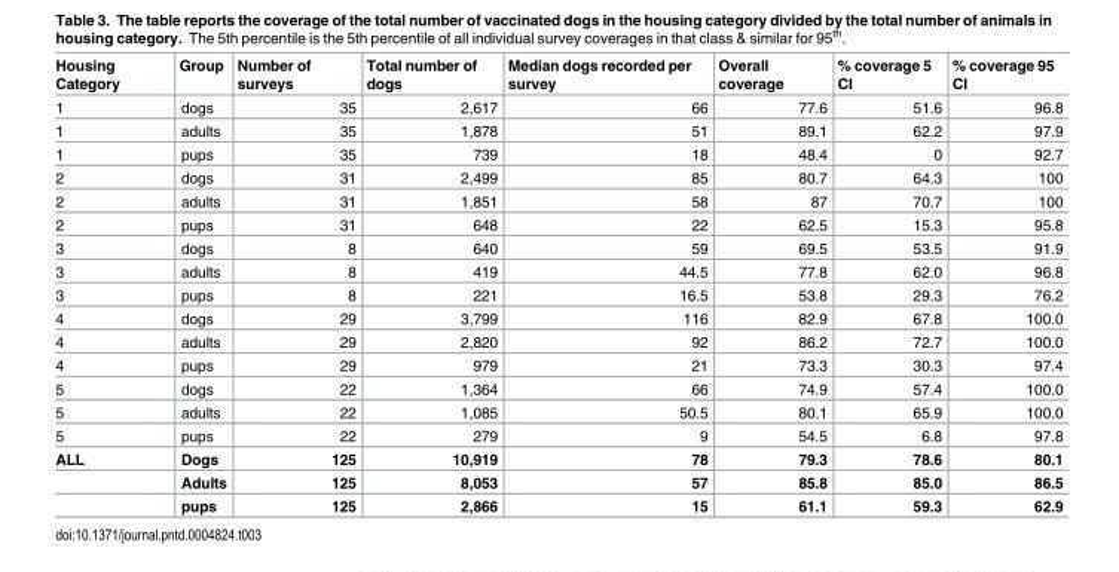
<table><thead><tr><td>Housing Category</td><td>Group</td><td>Number of surveys</td><td>Total number of dogs</td><td>Median dogs recorded per survey</td><td>Overall coverage</td><td>% coverage 5 CI</td><td>% coverage 95 CI</td></tr></thead><tbody><tr><td>1</td><td>dogs</td><td>35</td><td>2,617</td><td>66</td><td>77.6</td><td>51.6</td><td>96.8</td></tr><tr><td>1</td><td>adults</td><td>35</td><td>1,878</td><td>51</td><td>89.1</td><td>62.2</td><td>97.9</td></tr><tr><td>1</td><td>pups</td><td>35</td><td>739</td><td>18</td><td>48.4</td><td>0</td><td>92.7</td></tr><tr><td>2</td><td>dogs</td><td>31</td><td>2,499</td><td>85</td><td>80.7</td><td>64.3</td><td>100</td></tr><tr><td>2</td><td>adults</td><td>31</td><td>1,851</td><td>58</td><td>87</td><td>70.7</td><td>100</td></tr><tr><td>2</td><td>pups</td><td>31</td><td>648</td><td>22</td><td>62.5</td><td>15.3</td><td>95.8</td></tr><tr><td>3</td><td>dogs</td><td>8</td><td>640</td><td>59</td><td>69.5</td><td>53.5</td><td>91.9</td></tr><tr><td>3</td><td>adults</td><td>8</td><td>419</td><td>44.5</td><td>77.8</td><td>62.0</td><td>96.8</td></tr><tr><td>3</td><td>pups</td><td>8</td><td>221</td><td>16.5</td><td>53.8</td><td>29.3</td><td>76.2</td></tr><tr><td>4</td><td>dogs</td><td>29</td><td>3,799</td><td>116</td><td>82.9</td><td>67.8</td><td>100.0</td></tr><tr><td>4</td><td>adults</td><td>29</td><td>2,820</td><td>92</td><td>86.2</td><td>72.7</td><td>100.0</td></tr><tr><td>4</td><td>pups</td><td>29</td><td>979</td><td>21</td><td>73.3</td><td>30.3</td><td>97.4</td></tr><tr><td>5</td><td>dogs</td><td>22</td><td>1,364</td><td>66</td><td>74.9</td><td>57.4</td><td>100.0</td></tr><tr><td>5</td><td>adults</td><td>22</td><td>1,085</td><td>50.5</td><td>80.1</td><td>65.9</td><td>100.0</td></tr><tr><td>5</td><td>pups</td><td>22</td><td>279</td><td>9</td><td>54.5</td><td>6.8</td><td>97.8</td></tr><tr><td rowspan="3">ALL</td><td>Dogs</td><td>125</td><td>10,919</td><td>78</td><td>79.3</td><td>78.6</td><td>80.1</td></tr><tr><td>Adults</td><td>125</td><td>8,053</td><td>57</td><td>85.8</td><td>85.0</td><td>86.5</td></tr><tr><td>pups</td><td>125</td><td>2,866</td><td>15</td><td>61.1</td><td>59.3</td><td>62.9</td></tr></tbody></table>